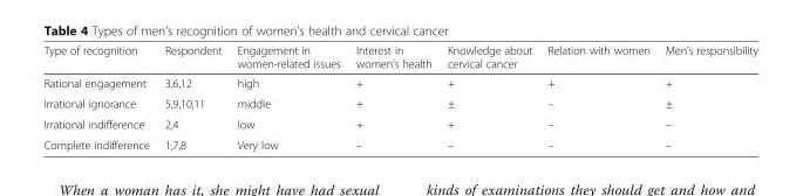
<table><thead><tr><td>Type of recognition</td><td>Respondent</td><td>Engagement in women-related issues</td><td>Interest in women’s health</td><td>Knowledge about cervical cancer</td><td>Relation with women</td><td>Men’s responsibility</td></tr></thead><tbody><tr><td>Rational engagement</td><td>3,6,12</td><td>high</td><td>+</td><td>+</td><td>+</td><td>+</td></tr><tr><td>Irrational ignorance</td><td>5,9,10,11</td><td>middle</td><td>+</td><td>±</td><td>–</td><td>±</td></tr><tr><td>Irrational indifference</td><td>2,4</td><td>low</td><td>+</td><td>+</td><td>–</td><td>–</td></tr><tr><td>Complete indifference</td><td>1,7,8</td><td>Very low</td><td>–</td><td>–</td><td>–</td><td>–</td></tr></tbody></table>